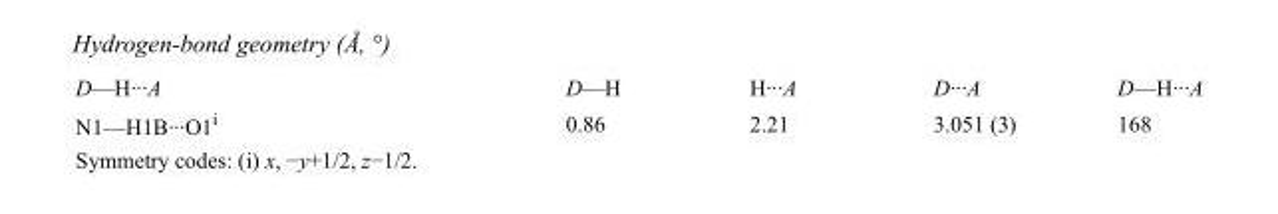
<table><tbody><tr><td>D—H···A</td><td>D—H</td><td>H···A</td><td>D···A</td><td>D—H···A</td></tr><tr><td>N1—H1B···O1<sup>i</sup></td><td>0.86</td><td>2.21</td><td>3.051 (3)</td><td>168</td></tr></tbody></table>